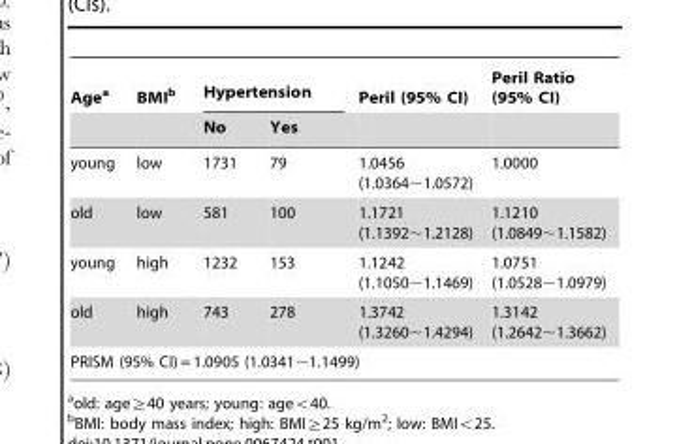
<table><thead><tr><td rowspan="2">Age<sup>a</sup></td><td rowspan="2">BMI<sup>b</sup></td><td colspan="2">Hypertension</td><td rowspan="2">Peril (95% CI)</td><td rowspan="2">Peril Ratio (95% CI)</td></tr><tr><td>No</td><td>Yes</td></tr></thead><tbody><tr><td>young</td><td>low</td><td>1731</td><td>79</td><td>1.0456 (1.0364∼1.0572)</td><td>1.0000</td></tr><tr><td>old</td><td>low</td><td>581</td><td>100</td><td>1.1721 (1.1392∼1.2128)</td><td>1.1210 (1.0849∼1.1582)</td></tr><tr><td>young</td><td>high</td><td>1232</td><td>153</td><td>1.1242 (1.1050∼1.1469)</td><td>1.0751 (1.0528∼1.0979)</td></tr><tr><td>old</td><td>high</td><td>743</td><td>278</td><td>1.3742 (1.3260∼1.4294)</td><td>1.3142 (1.2642∼1.3662)</td></tr><tr><td colspan="6">PRISM (95% CI) = 1.0905 (1.0341∼1.1499)</td></tr></tbody></table>